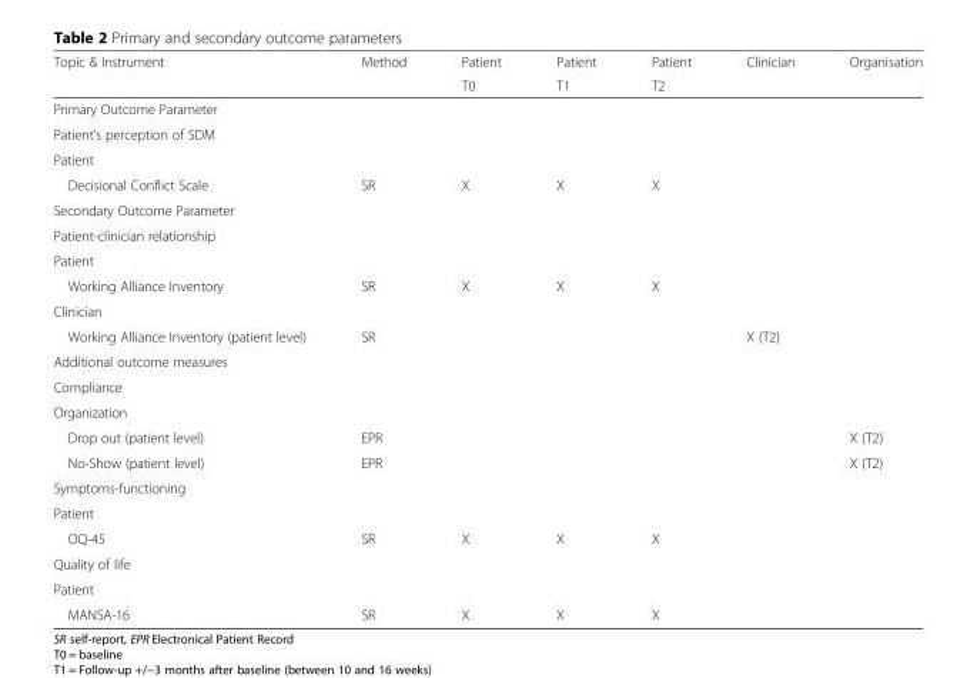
<table><thead><tr><td rowspan="2">Topic &amp; Instrument</td><td rowspan="2">Method</td><td rowspan="2">Patient T0</td><td rowspan="2">Patient T1</td><td rowspan="2">Patient T2</td><td rowspan="2">Clinician</td><td rowspan="2">Organisation</td></tr><tr></tr></thead><tbody><tr><td colspan="7">Primary Outcome Parameter</td></tr><tr><td colspan="7">Patient’s perception of SDM</td></tr><tr><td colspan="7">Patient</td></tr><tr><td>Decisional Conflict Scale</td><td>SR</td><td>X</td><td>X</td><td>X</td><td></td><td></td></tr><tr><td colspan="7">Secondary Outcome Parameter</td></tr><tr><td colspan="7">Patient-clinician relationship</td></tr><tr><td colspan="7">Patient</td></tr><tr><td>Working Alliance Inventory</td><td>SR</td><td>X</td><td>X</td><td>X</td><td></td><td></td></tr><tr><td colspan="7">Clinician</td></tr><tr><td>Working Alliance Inventory (patient level)</td><td>SR</td><td></td><td></td><td></td><td>X (T2)</td><td></td></tr><tr><td colspan="7">Additional outcome measures</td></tr><tr><td colspan="7">Compliance</td></tr><tr><td colspan="7">Organization</td></tr><tr><td>Drop out (patient level)</td><td>EPR</td><td></td><td></td><td></td><td></td><td>X (T2)</td></tr><tr><td>No-Show (patient level)</td><td>EPR</td><td></td><td></td><td></td><td></td><td>X (T2)</td></tr><tr><td colspan="7">Symptoms-functioning</td></tr><tr><td colspan="7">Patient</td></tr><tr><td>OQ-45</td><td>SR</td><td>X</td><td>X</td><td>X</td><td></td><td></td></tr><tr><td colspan="7">Quality of life</td></tr><tr><td colspan="7">Patient</td></tr><tr><td>MANSA-16</td><td>SR</td><td>X</td><td>X</td><td>X</td><td></td><td></td></tr></tbody></table>